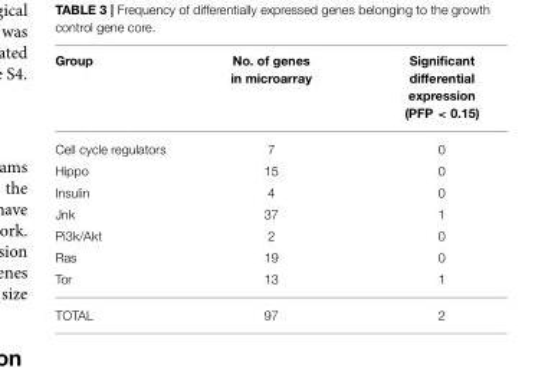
<table><thead><tr><td>Group</td><td>No. of genes in microarray</td><td>Significant differential expression (PFP &lt; 0.15)</td></tr></thead><tbody><tr><td>Cell cycle regulators</td><td>7</td><td>0</td></tr><tr><td>Hippo</td><td>15</td><td>0</td></tr><tr><td>Insulin</td><td>4</td><td>0</td></tr><tr><td>Jnk</td><td>37</td><td>1</td></tr><tr><td>Pi3k/Akt</td><td>2</td><td>0</td></tr><tr><td>Ras</td><td>19</td><td>0</td></tr><tr><td>Tor</td><td>13</td><td>1</td></tr><tr><td>TOTAL</td><td>97</td><td>2</td></tr></tbody></table>